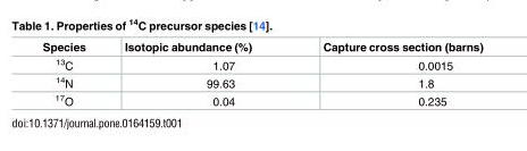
<table><thead><tr><td>Species</td><td>Isotopic abundance (%)</td><td>Capture cross section (barns)</td></tr></thead><tbody><tr><td><sup>13</sup>C</td><td>1.07</td><td>0.0015</td></tr><tr><td><sup>14</sup>N</td><td>99.63</td><td>1.8</td></tr><tr><td><sup>17</sup>O</td><td>0.04</td><td>0.235</td></tr></tbody></table>